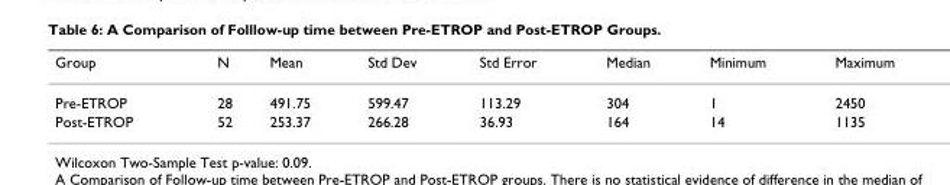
<table><thead><tr><td>Group</td><td>N</td><td>Mean</td><td>Std Dev</td><td>Std Error</td><td>Median</td><td>Minimum</td><td>Maximum</td></tr></thead><tbody><tr><td>Pre-ETROP</td><td>28</td><td>491.75</td><td>599.47</td><td>113.29</td><td>304</td><td>1</td><td>2450</td></tr><tr><td>Post-ETROP</td><td>52</td><td>253.37</td><td>266.28</td><td>36.93</td><td>164</td><td>14</td><td>1135</td></tr></tbody></table>